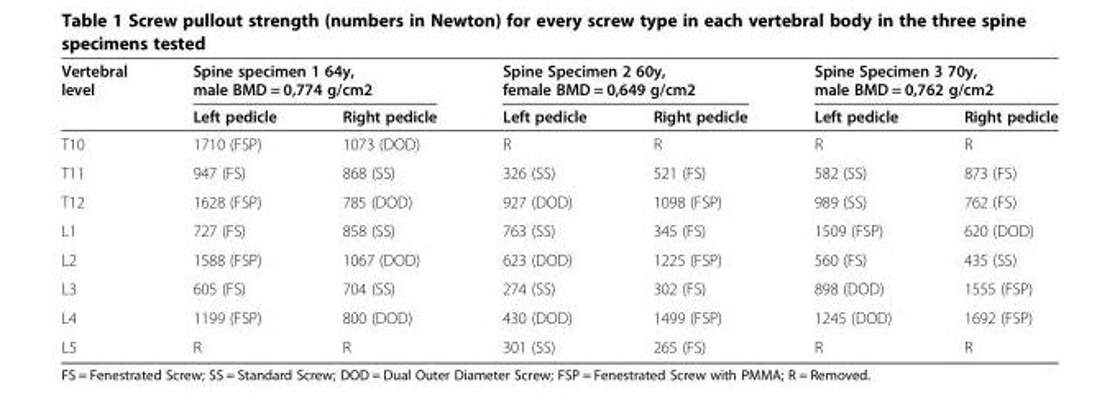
<table><thead><tr><td rowspan="2">Vertebral level</td><td colspan="2">Spine specimen 1 64y, male BMD = 0,774 g/cm2</td><td colspan="2">Spine Specimen 2 60y, female BMD = 0,649 g/cm2</td><td colspan="2">Spine Specimen 3 70y, male BMD = 0,762 g/cm2</td></tr><tr><td>Left pedicle</td><td>Right pedicle</td><td>Left pedicle</td><td>Right pedicle</td><td>Left pedicle</td><td>Right pedicle</td></tr></thead><tbody><tr><td>T10</td><td>1710 (FSP)</td><td>1073 (DOD)</td><td>R</td><td>R</td><td>R</td><td>R</td></tr><tr><td>T11</td><td>947 (FS)</td><td>868 (SS)</td><td>326 (SS)</td><td>521 (FS)</td><td>582 (SS)</td><td>873 (FS)</td></tr><tr><td>T12</td><td>1628 (FSP)</td><td>785 (DOD)</td><td>927 (DOD)</td><td>1098 (FSP)</td><td>989 (SS)</td><td>762 (FS)</td></tr><tr><td>L1</td><td>727 (FS)</td><td>858 (SS)</td><td>763 (SS)</td><td>345 (FS)</td><td>1509 (FSP)</td><td>620 (DOD)</td></tr><tr><td>L2</td><td>1588 (FSP)</td><td>1067 (DOD)</td><td>623 (DOD)</td><td>1225 (FSP)</td><td>560 (FS)</td><td>435 (SS)</td></tr><tr><td>L3</td><td>605 (FS)</td><td>704 (SS)</td><td>274 (SS)</td><td>302 (FS)</td><td>898 (DOD)</td><td>1555 (FSP)</td></tr><tr><td>L4</td><td>1199 (FSP)</td><td>800 (DOD)</td><td>430 (DOD)</td><td>1499 (FSP)</td><td>1245 (DOD)</td><td>1692 (FSP)</td></tr><tr><td>L5</td><td>R</td><td>R</td><td>301 (SS)</td><td>265 (FS)</td><td>R</td><td>R</td></tr></tbody></table>